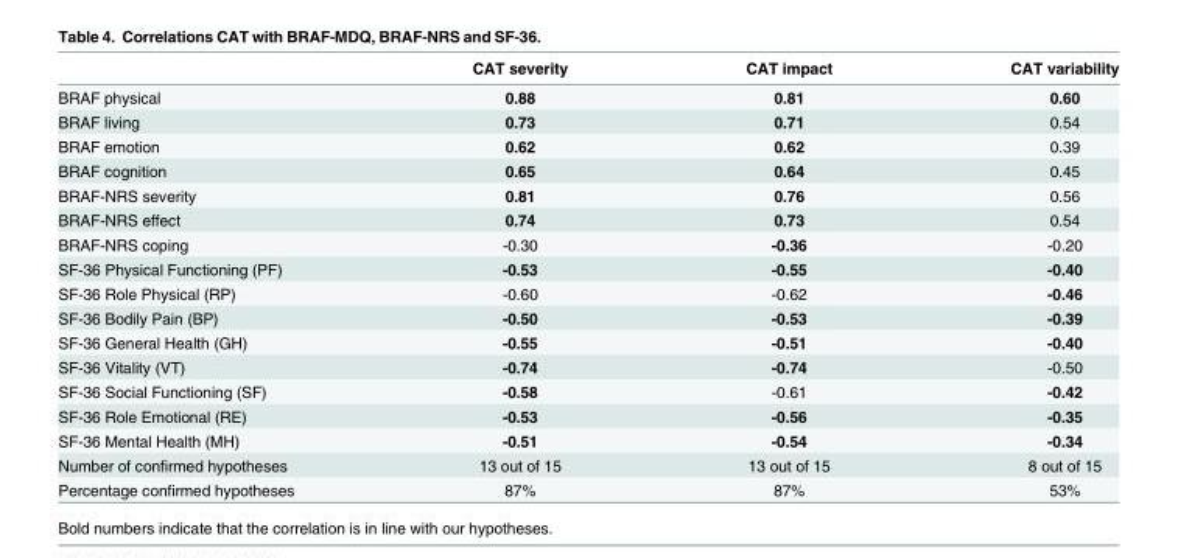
<table><thead><tr><td></td><td>CAT severity</td><td>CAT impact</td><td>CAT variability</td></tr></thead><tbody><tr><td>BRAF physical</td><td>0.88</td><td>0.81</td><td>0.60</td></tr><tr><td>BRAF living</td><td>0.73</td><td>0.71</td><td>0.54</td></tr><tr><td>BRAF emotion</td><td>0.62</td><td>0.62</td><td>0.39</td></tr><tr><td>BRAF cognition</td><td>0.65</td><td>0.64</td><td>0.45</td></tr><tr><td>BRAF-NRS severity</td><td>0.81</td><td>0.76</td><td>0.56</td></tr><tr><td>BRAF-NRS effect</td><td>0.74</td><td>0.73</td><td>0.54</td></tr><tr><td>BRAF-NRS coping</td><td>-0.30</td><td>-0.36</td><td>-0.20</td></tr><tr><td>SF-36 Physical Functioning (PF)</td><td>-0.53</td><td>-0.55</td><td>-0.40</td></tr><tr><td>SF-36 Role Physical (RP)</td><td>-0.60</td><td>-0.62</td><td>-0.46</td></tr><tr><td>SF-36 Bodily Pain (BP)</td><td>-0.50</td><td>-0.53</td><td>-0.39</td></tr><tr><td>SF-36 General Health (GH)</td><td>-0.55</td><td>-0.51</td><td>-0.40</td></tr><tr><td>SF-36 Vitality (VT)</td><td>-0.74</td><td>-0.74</td><td>-0.50</td></tr><tr><td>SF-36 Social Functioning (SF)</td><td>-0.58</td><td>-0.61</td><td>-0.42</td></tr><tr><td>SF-36 Role Emotional (RE)</td><td>-0.53</td><td>-0.56</td><td>-0.35</td></tr><tr><td>SF-36 Mental Health (MH)</td><td>-0.51</td><td>-0.54</td><td>-0.34</td></tr><tr><td>Number of confirmed hypotheses</td><td>13 out of 15</td><td>13 out of 15</td><td>8 out of 15</td></tr><tr><td>Percentage confirmed hypotheses</td><td>87%</td><td>87%</td><td>53%</td></tr></tbody></table>